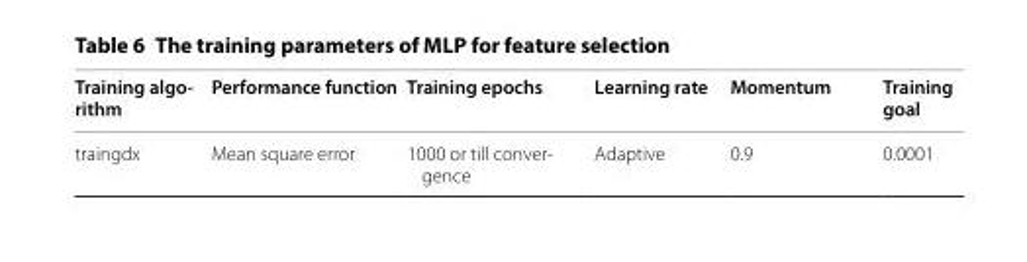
<table><thead><tr><td>Training algo- rithm</td><td>Performance function</td><td>Training epochs</td><td>Learning rate</td><td>Momentum</td><td>Training goal</td></tr></thead><tbody><tr><td>traingdx</td><td>Mean square error</td><td>1000 or till conver- gence</td><td>Adaptive</td><td>0.9</td><td>0.0001</td></tr></tbody></table>